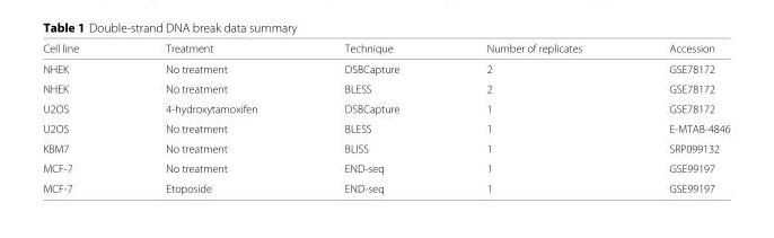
<table><thead><tr><td>Cell line</td><td>Treatment</td><td>Technique</td><td>Number of replicates</td><td>Accession</td></tr></thead><tbody><tr><td>NHEK</td><td>No treatment</td><td>DSBCapture</td><td>2</td><td>GSE78172</td></tr><tr><td>NHEK</td><td>No treatment</td><td>BLESS</td><td>2</td><td>GSE78172</td></tr><tr><td>U2OS</td><td>4-hydroxytamoxifen</td><td>DSBCapture</td><td>1</td><td>GSE78172</td></tr><tr><td>U2OS</td><td>No treatment</td><td>BLESS</td><td>1</td><td>E-MTAB-4846</td></tr><tr><td>KBM7</td><td>No treatment</td><td>BLISS</td><td>1</td><td>SRP099132</td></tr><tr><td>MCF-7</td><td>No treatment</td><td>END-seq</td><td>1</td><td>GSE99197</td></tr><tr><td>MCF-7</td><td>Etoposide</td><td>END-seq</td><td>1</td><td>GSE99197</td></tr></tbody></table>